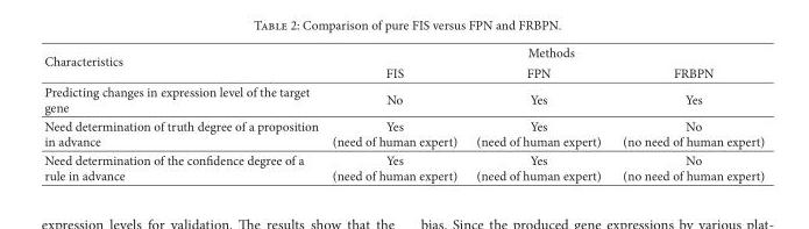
<table><thead><tr><td rowspan="2">Characteristics</td><td colspan="3">Methods</td></tr><tr><td>FIS</td><td>FPN</td><td>FRBPN</td></tr></thead><tbody><tr><td>Predicting changes in expression level of the target gene</td><td>No</td><td>Yes</td><td>Yes</td></tr><tr><td>Need determination of truth degree of a proposition in advance</td><td>Yes (need of human expert)</td><td>Yes (need of human expert)</td><td>No (no need of human expert)</td></tr><tr><td>Need determination of the confidence degree of a rule in advance</td><td>Yes (need of human expert)</td><td>Yes (need of human expert)</td><td>No (no need of human expert)</td></tr></tbody></table>